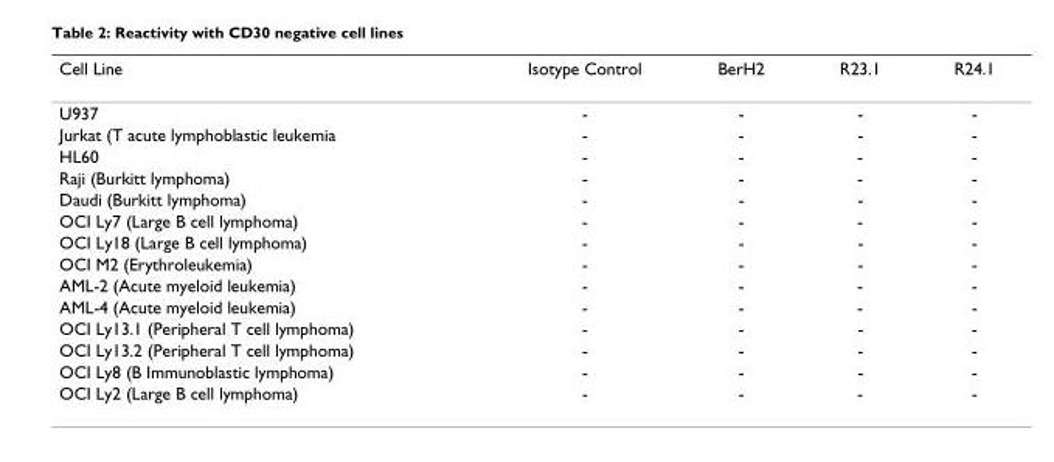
<table><thead><tr><td>Cell Line</td><td>Isotype Control</td><td>BerH2</td><td>R23.1</td><td>R24.1</td></tr></thead><tbody><tr><td>U937</td><td>-</td><td>-</td><td>-</td><td>-</td></tr><tr><td>Jurkat (T acute lymphoblastic leukemia</td><td>-</td><td>-</td><td>-</td><td>-</td></tr><tr><td>HL60</td><td>-</td><td>-</td><td>-</td><td>-</td></tr><tr><td>Raji (Burkitt lymphoma)</td><td>-</td><td>-</td><td>-</td><td>-</td></tr><tr><td>Daudi (Burkitt lymphoma)</td><td>-</td><td>-</td><td>-</td><td>-</td></tr><tr><td>OCI Ly7 (Large B cell lymphoma)</td><td>-</td><td>-</td><td>-</td><td>-</td></tr><tr><td>OCI Ly18 (Large B cell lymphoma)</td><td>-</td><td>-</td><td>-</td><td>-</td></tr><tr><td>OCI M2 (Erythroleukemia)</td><td>-</td><td>-</td><td>-</td><td>-</td></tr><tr><td>AML-2 (Acute myeloid leukemia)</td><td>-</td><td>-</td><td>-</td><td>-</td></tr><tr><td>AML-4 (Acute myeloid leukemia)</td><td>-</td><td>-</td><td>-</td><td>-</td></tr><tr><td>OCI Ly13.1 (Peripheral T cell lymphoma)</td><td>-</td><td>-</td><td>-</td><td>-</td></tr><tr><td>OCI Ly13.2 (Peripheral T cell lymphoma)</td><td>-</td><td>-</td><td>-</td><td>-</td></tr><tr><td>OCI Ly8 (B Immunoblastic lymphoma)</td><td>-</td><td>-</td><td>-</td><td>-</td></tr><tr><td>OCI Ly2 (Large B cell lymphoma)</td><td>-</td><td>-</td><td>-</td><td>-</td></tr></tbody></table>